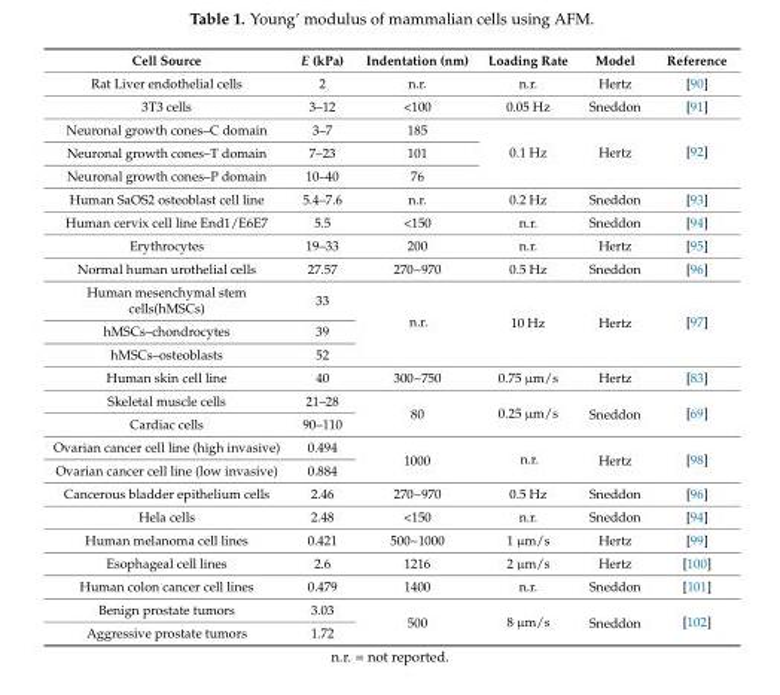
<table><thead><tr><td>Cell Source</td><td>E (kPa)</td><td>Indentation (nm)</td><td>Loading Rate</td><td>Model</td><td>Reference</td></tr></thead><tbody><tr><td>Rat Liver endothelial cells</td><td>2</td><td>n.r.</td><td>n.r.</td><td>Hertz</td><td>[90]</td></tr><tr><td>3T3 cells</td><td>3–12</td><td>&lt;100</td><td>0.05 Hz</td><td>Sneddon</td><td>[91]</td></tr><tr><td>Neuronal growth cones–C domain</td><td>3–7</td><td>185</td><td rowspan="3">0.1 Hz</td><td rowspan="3">Hertz</td><td rowspan="3">[92]</td></tr><tr><td>Neuronal growth cones–T domain</td><td>7–23</td><td>101</td></tr><tr><td>Neuronal growth cones–P domain</td><td>10–40</td><td>76</td></tr><tr><td>Human SaOS2 osteoblast cell line</td><td>5.4–7.6</td><td>n.r.</td><td>0.2 Hz</td><td>Sneddon</td><td>[93]</td></tr><tr><td>Human cervix cell line End1/E6E7</td><td>5.5</td><td>&lt;150</td><td>n.r.</td><td>Sneddon</td><td>[94]</td></tr><tr><td>Erythrocytes</td><td>19–33</td><td>200</td><td>n.r.</td><td>Hertz</td><td>[95]</td></tr><tr><td>Normal human urothelial cells</td><td>27.57</td><td>270~970</td><td>0.5 Hz</td><td>Sneddon</td><td>[96]</td></tr><tr><td>Human mesenchymal stem cells(hMSCs)</td><td>33</td><td rowspan="3">n.r.</td><td rowspan="3">10 Hz</td><td rowspan="3">Hertz</td><td rowspan="3">[97]</td></tr><tr><td>hMSCs–chondrocytes</td><td>39</td></tr><tr><td>hMSCs–osteoblasts</td><td>52</td></tr><tr><td>Human skin cell line</td><td>40</td><td>300~750</td><td>0.75 µm/s</td><td>Hertz</td><td>[83]</td></tr><tr><td>Skeletal muscle cells</td><td>21–28</td><td rowspan="2">80</td><td rowspan="2">0.25 µm/s</td><td rowspan="2">Sneddon</td><td rowspan="2">[69]</td></tr><tr><td>Cardiac cells</td><td>90–110</td></tr><tr><td>Ovarian cancer cell line (high invasive)</td><td>0.494</td><td rowspan="2">1000</td><td rowspan="2">n.r.</td><td rowspan="2">Hertz</td><td rowspan="2">[98]</td></tr><tr><td>Ovarian cancer cell line (low invasive)</td><td>0.884</td></tr><tr><td>Cancerous bladder epithelium cells</td><td>2.46</td><td>270~970</td><td>0.5 Hz</td><td>Sneddon</td><td>[96]</td></tr><tr><td>Hela cells</td><td>2.48</td><td>&lt;150</td><td>n.r.</td><td>Sneddon</td><td>[94]</td></tr><tr><td>Human melanoma cell lines</td><td>0.421</td><td>500~1000</td><td>1 µm/s</td><td>Hertz</td><td>[99]</td></tr><tr><td>Esophageal cell lines</td><td>2.6</td><td>1216</td><td>2 µm/s</td><td>Hertz</td><td>[100]</td></tr><tr><td>Human colon cancer cell lines</td><td>0.479</td><td>1400</td><td>n.r.</td><td>Sneddon</td><td>[101]</td></tr><tr><td>Benign prostate tumors</td><td>3.03</td><td rowspan="2">500</td><td rowspan="2">8 µm/s</td><td rowspan="2">Sneddon</td><td rowspan="2">[102]</td></tr><tr><td>Aggressive prostate tumors</td><td>1.72</td></tr></tbody></table>